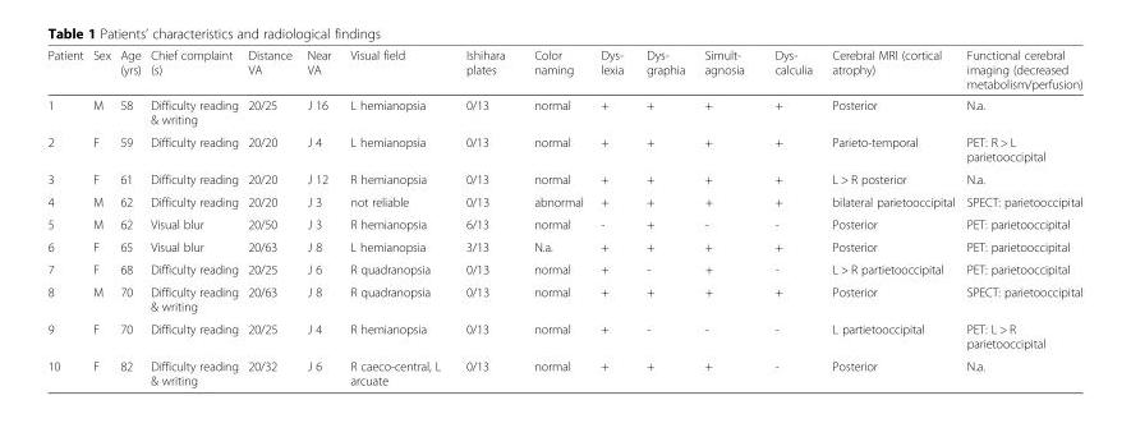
<table><thead><tr><td>Patient</td><td>Sex</td><td>Age (yrs)</td><td>Chief complaint (s)</td><td>Distance VA</td><td>Near VA</td><td>Visual field</td><td>Ishihara plates</td><td>Color naming</td><td>Dys- lexia</td><td>Dys- graphia</td><td>Simult- agnosia</td><td>Dys- calculia</td><td>Cerebral MRI (cortical atrophy)</td><td>Functional cerebral imaging (decreased metabolism/perfusion)</td></tr></thead><tbody><tr><td>1</td><td>M</td><td>58</td><td>Difficulty reading &amp; writing</td><td>20/25</td><td>J 16</td><td>L hemianopsia</td><td>0/13</td><td>normal</td><td>+</td><td>+</td><td>+</td><td>+</td><td>Posterior</td><td>N.a.</td></tr><tr><td>2</td><td>F</td><td>59</td><td>Difficulty reading</td><td>20/20</td><td>J 4</td><td>L hemianopsia</td><td>0/13</td><td>normal</td><td>+</td><td>+</td><td>+</td><td>+</td><td>Parieto-temporal</td><td>PET: R &gt; L parietooccipital</td></tr><tr><td>3</td><td>F</td><td>61</td><td>Difficulty reading</td><td>20/20</td><td>J 12</td><td>R hemianopsia</td><td>0/13</td><td>normal</td><td>+</td><td>+</td><td>+</td><td>+</td><td>L &gt; R posterior</td><td>N.a.</td></tr><tr><td>4</td><td>M</td><td>62</td><td>Difficulty reading</td><td>20/20</td><td>J 3</td><td>not reliable</td><td>0/13</td><td>abnormal</td><td>+</td><td>+</td><td>+</td><td>+</td><td>bilateral parietooccipital</td><td>SPECT: parietooccipital</td></tr><tr><td>5</td><td>M</td><td>62</td><td>Visual blur</td><td>20/50</td><td>J 3</td><td>R hemianopsia</td><td>6/13</td><td>normal</td><td>-</td><td>+</td><td>-</td><td>-</td><td>Posterior</td><td>PET: parietooccipital</td></tr><tr><td>6</td><td>F</td><td>65</td><td>Visual blur</td><td>20/63</td><td>J 8</td><td>L hemianopsia</td><td>3/13</td><td>N.a.</td><td>+</td><td>+</td><td>+</td><td>+</td><td>Posterior</td><td>PET: parietooccipital</td></tr><tr><td>7</td><td>F</td><td>68</td><td>Difficulty reading</td><td>20/25</td><td>J 6</td><td>R quadranopsia</td><td>0/13</td><td>normal</td><td>+</td><td>-</td><td>+</td><td>-</td><td>L &gt; R partietooccipital</td><td>PET: parietooccipital</td></tr><tr><td>8</td><td>M</td><td>70</td><td>Difficulty reading &amp; writing</td><td>20/63</td><td>J 8</td><td>R quadranopsia</td><td>0/13</td><td>normal</td><td>+</td><td>+</td><td>+</td><td>+</td><td>Posterior</td><td>SPECT: parietooccipital</td></tr><tr><td>9</td><td>F</td><td>70</td><td>Difficulty reading</td><td>20/25</td><td>J 4</td><td>R hemianopsia</td><td>0/13</td><td>normal</td><td>+</td><td>-</td><td>-</td><td>-</td><td>L partietooccipital</td><td>PET: L &gt; R parietooccipital</td></tr><tr><td>10</td><td>F</td><td>82</td><td>Difficulty reading &amp; writing</td><td>20/32</td><td>J 6</td><td>R caeco-central, L arcuate</td><td>0/13</td><td>normal</td><td>+</td><td>+</td><td>+</td><td>-</td><td>Posterior</td><td>N.a.</td></tr></tbody></table>